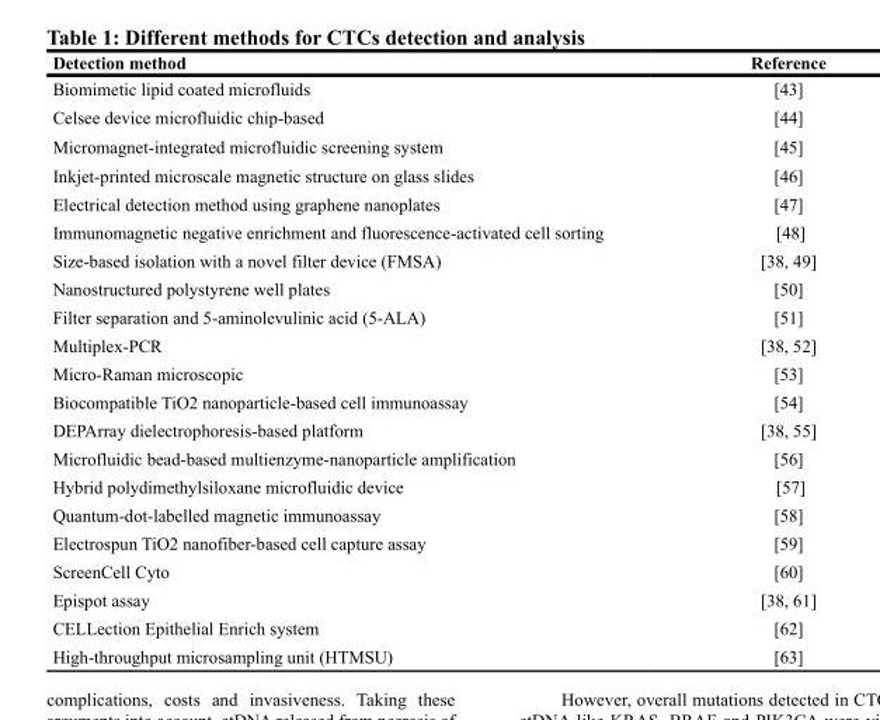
<table><thead><tr><td>Detection method</td><td>Reference</td></tr></thead><tbody><tr><td>Biomimetic lipid coated microfluids</td><td>[43]</td></tr><tr><td>Celsee device microfluidic chip-based</td><td>[44]</td></tr><tr><td>Micromagnet-integrated microfluidic screening system</td><td>[45]</td></tr><tr><td>Inkjet-printed microscale magnetic structure on glass slides</td><td>[46]</td></tr><tr><td>Electrical detection method using graphene nanoplates</td><td>[47]</td></tr><tr><td>Immunomagnetic negative enrichment and fluorescence-activated cell sorting</td><td>[48]</td></tr><tr><td>Size-based isolation with a novel filter device (FMSA)</td><td>[38, 49]</td></tr><tr><td>Nanostructured polystyrene well plates</td><td>[50]</td></tr><tr><td>Filter separation and 5-aminolevulinic acid (5-ALA)</td><td>[51]</td></tr><tr><td>Multiplex-PCR</td><td>[38, 52]</td></tr><tr><td>Micro-Raman microscopic</td><td>[53]</td></tr><tr><td>Biocompatible TiO2 nanoparticle-based cell immunoassay</td><td>[54]</td></tr><tr><td>DEPArray dielectrophoresis-based platform</td><td>[38, 55]</td></tr><tr><td>Microfluidic bead-based multienzyme-nanoparticle amplification</td><td>[56]</td></tr><tr><td>Hybrid polydimethylsiloxane microfluidic device</td><td>[57]</td></tr><tr><td>Quantum-dot-labelled magnetic immunoassay</td><td>[58]</td></tr><tr><td>Electrospun TiO2 nanofiber-based cell capture assay</td><td>[59]</td></tr><tr><td>ScreenCell Cyto</td><td>[60]</td></tr><tr><td>Epispot assay</td><td>[38, 61]</td></tr><tr><td>CELLection Epithelial Enrich system</td><td>[62]</td></tr><tr><td>High-throughput microsampling unit (HTMSU)</td><td>[63]</td></tr></tbody></table>